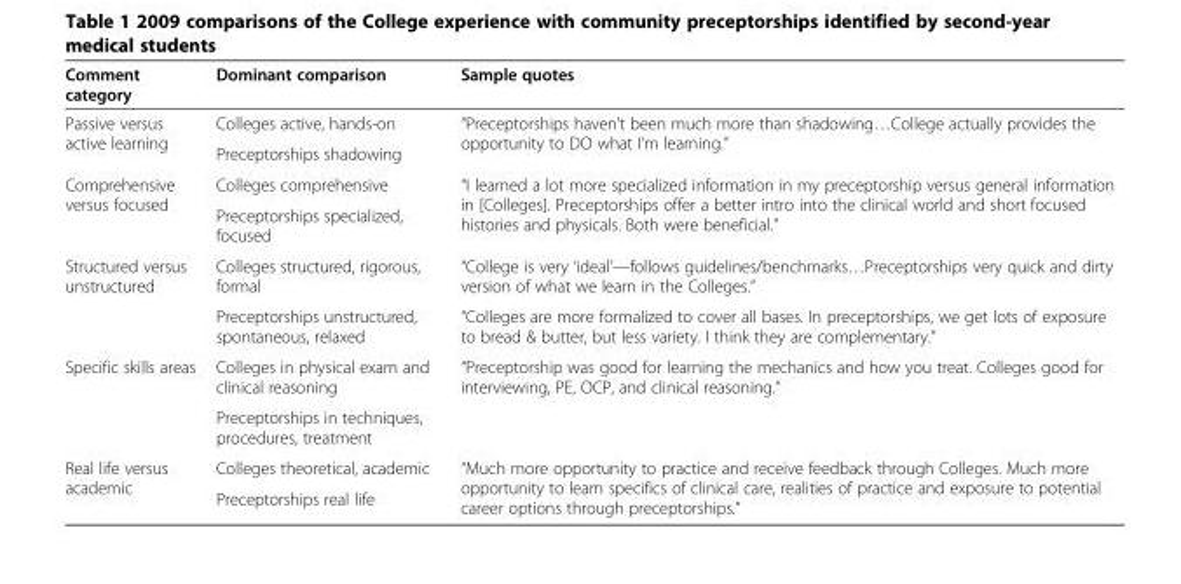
<table><thead><tr><td>Comment category</td><td>Dominant comparison</td><td>Sample quotes</td></tr></thead><tbody><tr><td rowspan="2">Passive versus active learning</td><td>Colleges active, hands-on</td><td rowspan="2">“Preceptorships haven’t been much more than shadowing…College actually provides the opportunity to DO what I’m learning.”</td></tr><tr><td>Preceptorships shadowing</td></tr><tr><td rowspan="2">Comprehensive versus focused</td><td>Colleges comprehensive</td><td rowspan="2">“I learned a lot more specialized information in my preceptorship versus general information in [Colleges]. Preceptorships offer a better intro into the clinical world and short focused histories and physicals. Both were beneficial.”</td></tr><tr><td>Preceptorships specialized, focused</td></tr><tr><td rowspan="2">Structured versus unstructured</td><td>Colleges structured, rigorous, formal</td><td>“College is very ‘ideal’—follows guidelines/benchmarks…Preceptorships very quick and dirty version of what we learn in the Colleges.”</td></tr><tr><td>Preceptorships unstructured, spontaneous, relaxed</td><td>“Colleges are more formalized to cover all bases. In preceptorships, we get lots of exposure to bread &amp; butter, but less variety. I think they are complementary.”</td></tr><tr><td rowspan="2">Specific skills areas</td><td>Colleges in physical exam and clinical reasoning</td><td rowspan="2">“Preceptorship was good for learning the mechanics and how you treat. Colleges good for interviewing, PE, OCP, and clinical reasoning.”</td></tr><tr><td>Preceptorships in techniques, procedures, treatment</td></tr><tr><td rowspan="2">Real life versus academic</td><td>Colleges theoretical, academic</td><td rowspan="2">“Much more opportunity to practice and receive feedback through Colleges. Much more opportunity to learn specifics of clinical care, realities of practice and exposure to potential career options through preceptorships.”</td></tr><tr><td>Preceptorships real life</td></tr></tbody></table>